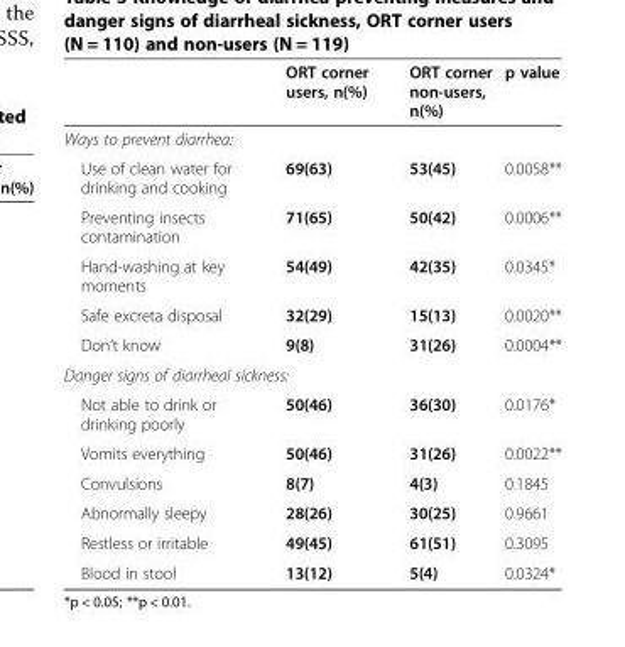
<table><thead><tr><td></td><td>ORT corner users, n(%)</td><td>ORT corner non-users, n(%)</td><td>p value</td></tr></thead><tbody><tr><td colspan="4">Ways to prevent diarrhea:</td></tr><tr><td>Use of clean water for drinking and cooking</td><td>69(63)</td><td>53(45)</td><td>0.0058**</td></tr><tr><td>Preventing insects contamination</td><td>71(65)</td><td>50(42)</td><td>0.0006**</td></tr><tr><td>Hand-washing at key moments</td><td>54(49)</td><td>42(35)</td><td>0.0345*</td></tr><tr><td>Safe excreta disposal</td><td>32(29)</td><td>15(13)</td><td>0.0020**</td></tr><tr><td>Don’t know</td><td>9(8)</td><td>31(26)</td><td>0.0004**</td></tr><tr><td colspan="4">Danger signs of diarrheal sickness:</td></tr><tr><td>Not able to drink or drinking poorly</td><td>50(46)</td><td>36(30)</td><td>0.0176*</td></tr><tr><td>Vomits everything</td><td>50(46)</td><td>31(26)</td><td>0.0022**</td></tr><tr><td>Convulsions</td><td>8(7)</td><td>4(3)</td><td>0.1845</td></tr><tr><td>Abnormally sleepy</td><td>28(26)</td><td>30(25)</td><td>0.9661</td></tr><tr><td>Restless or irritable</td><td>49(45)</td><td>61(51)</td><td>0.3095</td></tr><tr><td>Blood in stool</td><td>13(12)</td><td>5(4)</td><td>0.0324*</td></tr></tbody></table>